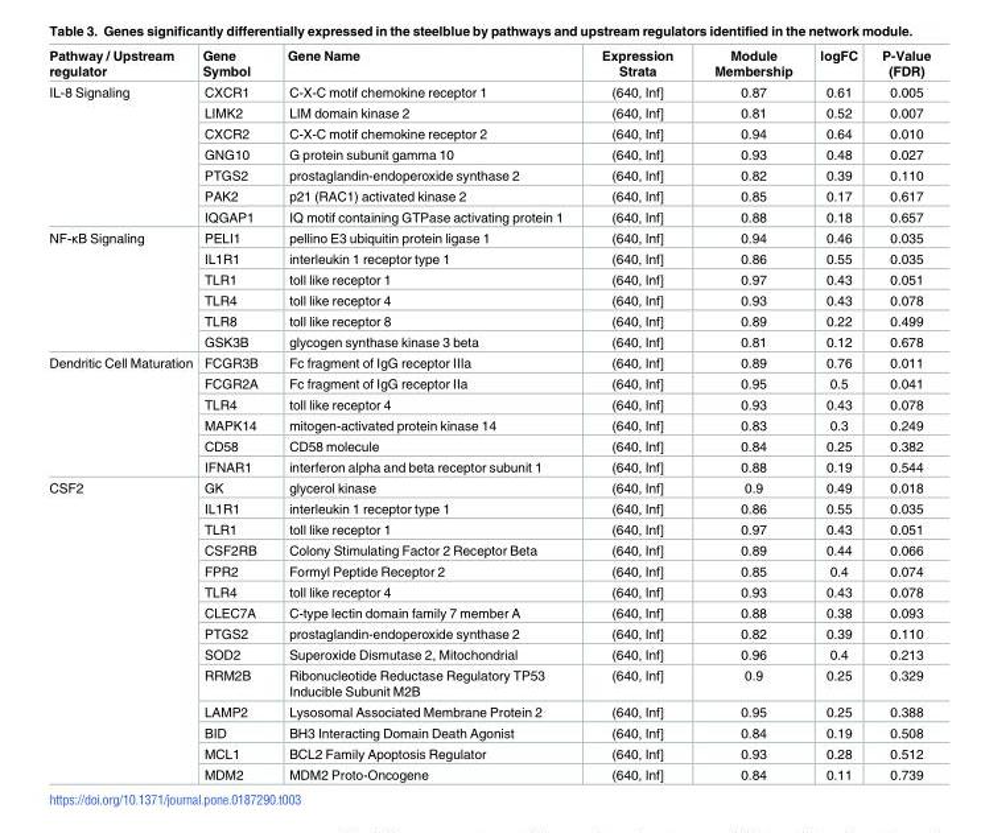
<table><thead><tr><td>Pathway / Upstream regulator</td><td>Gene Symbol</td><td>Gene Name</td><td>Expression Strata</td><td>Module Membership</td><td>logFC</td><td>P-Value (FDR)</td></tr></thead><tbody><tr><td rowspan="7">IL-8 Signaling</td><td>CXCR1</td><td>C-X-C motif chemokine receptor 1</td><td>(640, Inf]</td><td>0.87</td><td>0.61</td><td>0.005</td></tr><tr><td>LIMK2</td><td>LIM domain kinase 2</td><td>(640, Inf]</td><td>0.81</td><td>0.52</td><td>0.007</td></tr><tr><td>CXCR2</td><td>C-X-C motif chemokine receptor 2</td><td>(640, Inf]</td><td>0.94</td><td>0.64</td><td>0.010</td></tr><tr><td>GNG10</td><td>G protein subunit gamma 10</td><td>(640, Inf]</td><td>0.93</td><td>0.48</td><td>0.027</td></tr><tr><td>PTGS2</td><td>prostaglandin-endoperoxide synthase 2</td><td>(640, Inf]</td><td>0.82</td><td>0.39</td><td>0.110</td></tr><tr><td>PAK2</td><td>p21 (RAC1) activated kinase 2</td><td>(640, Inf]</td><td>0.85</td><td>0.17</td><td>0.617</td></tr><tr><td>IQGAP1</td><td>IQ motif containing GTPase activating protein 1</td><td>(640, Inf]</td><td>0.88</td><td>0.18</td><td>0.657</td></tr><tr><td rowspan="6">NF-κB Signaling</td><td>PELI1</td><td>pellino E3 ubiquitin protein ligase 1</td><td>(640, Inf]</td><td>0.94</td><td>0.46</td><td>0.035</td></tr><tr><td>IL1R1</td><td>interleukin 1 receptor type 1</td><td>(640, Inf]</td><td>0.86</td><td>0.55</td><td>0.035</td></tr><tr><td>TLR1</td><td>toll like receptor 1</td><td>(640, Inf]</td><td>0.97</td><td>0.43</td><td>0.051</td></tr><tr><td>TLR4</td><td>toll like receptor 4</td><td>(640, Inf]</td><td>0.93</td><td>0.43</td><td>0.078</td></tr><tr><td>TLR8</td><td>toll like receptor 8</td><td>(640, Inf]</td><td>0.89</td><td>0.22</td><td>0.499</td></tr><tr><td>GSK3B</td><td>glycogen synthase kinase 3 beta</td><td>(640, Inf]</td><td>0.81</td><td>0.12</td><td>0.678</td></tr><tr><td rowspan="6">Dendritic Cell Maturation</td><td>FCGR3B</td><td>Fc fragment of IgG receptor IIIa</td><td>(640, Inf]</td><td>0.89</td><td>0.76</td><td>0.011</td></tr><tr><td>FCGR2A</td><td>Fc fragment of IgG receptor IIa</td><td>(640, Inf]</td><td>0.95</td><td>0.5</td><td>0.041</td></tr><tr><td>TLR4</td><td>toll like receptor 4</td><td>(640, Inf]</td><td>0.93</td><td>0.43</td><td>0.078</td></tr><tr><td>MAPK14</td><td>mitogen-activated protein kinase 14</td><td>(640, Inf]</td><td>0.83</td><td>0.3</td><td>0.249</td></tr><tr><td>CD58</td><td>CD58 molecule</td><td>(640, Inf]</td><td>0.84</td><td>0.25</td><td>0.382</td></tr><tr><td>IFNAR1</td><td>interferon alpha and beta receptor subunit 1</td><td>(640, Inf]</td><td>0.88</td><td>0.19</td><td>0.544</td></tr><tr><td rowspan="14">CSF2</td><td>GK</td><td>glycerol kinase</td><td>(640, Inf]</td><td>0.9</td><td>0.49</td><td>0.018</td></tr><tr><td>IL1R1</td><td>interleukin 1 receptor type 1</td><td>(640, Inf]</td><td>0.86</td><td>0.55</td><td>0.035</td></tr><tr><td>TLR1</td><td>toll like receptor 1</td><td>(640, Inf]</td><td>0.97</td><td>0.43</td><td>0.051</td></tr><tr><td>CSF2RB</td><td>Colony Stimulating Factor 2 Receptor Beta</td><td>(640, Inf]</td><td>0.89</td><td>0.44</td><td>0.066</td></tr><tr><td>FPR2</td><td>Formyl Peptide Receptor 2</td><td>(640, Inf]</td><td>0.85</td><td>0.4</td><td>0.074</td></tr><tr><td>TLR4</td><td>toll like receptor 4</td><td>(640, Inf]</td><td>0.93</td><td>0.43</td><td>0.078</td></tr><tr><td>CLEC7A</td><td>C-type lectin domain family 7 member A</td><td>(640, Inf]</td><td>0.88</td><td>0.38</td><td>0.093</td></tr><tr><td>PTGS2</td><td>prostaglandin-endoperoxide synthase 2</td><td>(640, Inf]</td><td>0.82</td><td>0.39</td><td>0.110</td></tr><tr><td>SOD2</td><td>Superoxide Dismutase 2, Mitochondrial</td><td>(640, Inf]</td><td>0.96</td><td>0.4</td><td>0.213</td></tr><tr><td>RRM2B</td><td>Ribonucleotide Reductase Regulatory TP53 Inducible Subunit M2B</td><td>(640, Inf]</td><td>0.9</td><td>0.25</td><td>0.329</td></tr><tr><td>LAMP2</td><td>Lysosomal Associated Membrane Protein 2</td><td>(640, Inf]</td><td>0.95</td><td>0.25</td><td>0.388</td></tr><tr><td>BID</td><td>BH3 Interacting Domain Death Agonist</td><td>(640, Inf]</td><td>0.84</td><td>0.19</td><td>0.508</td></tr><tr><td>MCL1</td><td>BCL2 Family Apoptosis Regulator</td><td>(640, Inf]</td><td>0.93</td><td>0.28</td><td>0.512</td></tr><tr><td>MDM2</td><td>MDM2 Proto-Oncogene</td><td>(640, Inf]</td><td>0.84</td><td>0.11</td><td>0.739</td></tr></tbody></table>